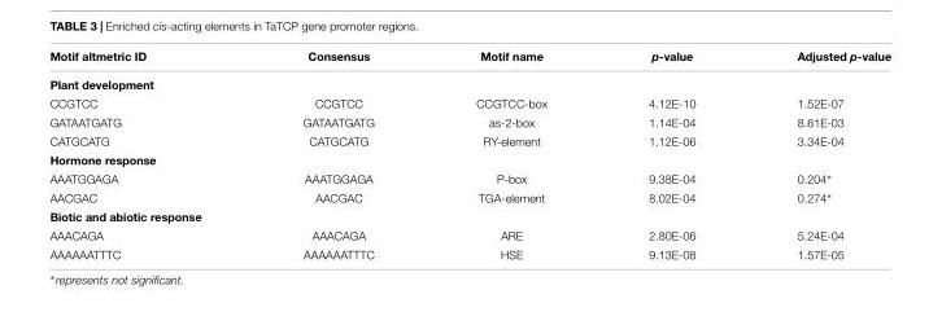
<table><thead><tr><td>Motif altmetric ID</td><td>Consensus</td><td>Motif name</td><td>p-value</td><td>Adjusted p-value</td></tr></thead><tbody><tr><td colspan="5">Plant development</td></tr><tr><td>CCGTCC</td><td>CCGTCC</td><td>CCGTCC-box</td><td>4.12E-10</td><td>1.52E-07</td></tr><tr><td>GATAATGATG</td><td>GATAATGATG</td><td>as-2-box</td><td>1.14E-04</td><td>8.61E-03</td></tr><tr><td>CATGCATG</td><td>CATGCATG</td><td>RY-element</td><td>1.12E-06</td><td>3.34E-04</td></tr><tr><td colspan="5">Hormone response</td></tr><tr><td>AAATGGAGA</td><td>AAATGGAGA</td><td>P-box</td><td>9.38E-04</td><td>0.204∗</td></tr><tr><td>AACGAC</td><td>AACGAC</td><td>TGA-element</td><td>8.02E-04</td><td>0.274∗</td></tr><tr><td colspan="5">Biotic and abiotic response</td></tr><tr><td>AAACAGA</td><td>AAACAGA</td><td>ARE</td><td>2.80E-06</td><td>5.24E-04</td></tr><tr><td>AAAAAATTTC</td><td>AAAAAATTTC</td><td>HSE</td><td>9.13E-08</td><td>1.57E-05</td></tr></tbody></table>